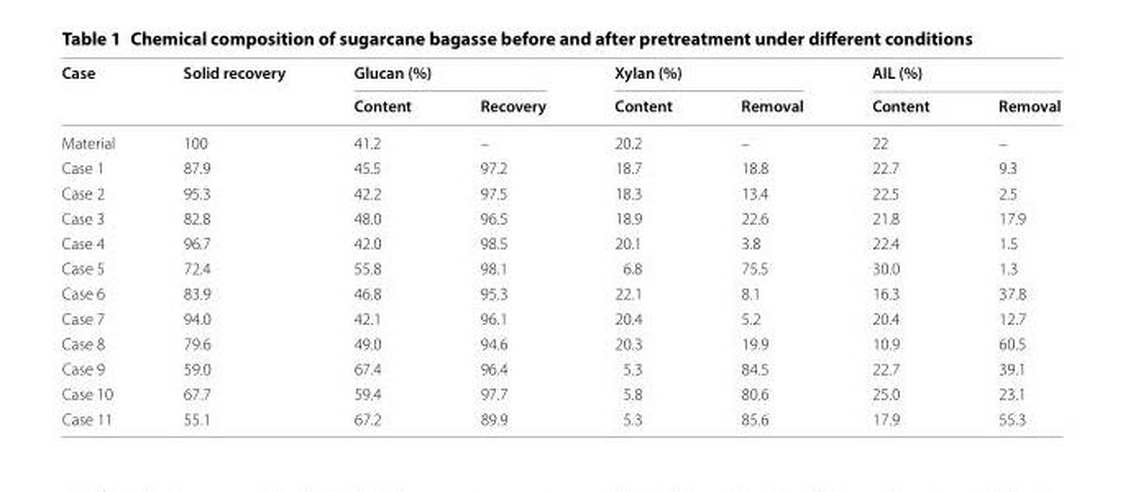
<table><thead><tr><td rowspan="2">Case</td><td rowspan="2">Solid recovery</td><td colspan="2">Glucan (%)</td><td colspan="2">Xylan (%)</td><td colspan="2">AIL (%)</td></tr><tr><td>Content</td><td>Recovery</td><td>Content</td><td>Removal</td><td>Content</td><td>Removal</td></tr></thead><tbody><tr><td>Material</td><td>100</td><td>41.2</td><td>–</td><td>20.2</td><td>–</td><td>22</td><td>–</td></tr><tr><td>Case 1</td><td>87.9</td><td>45.5</td><td>97.2</td><td>18.7</td><td>18.8</td><td>22.7</td><td>9.3</td></tr><tr><td>Case 2</td><td>95.3</td><td>42.2</td><td>97.5</td><td>18.3</td><td>13.4</td><td>22.5</td><td>2.5</td></tr><tr><td>Case 3</td><td>82.8</td><td>48.0</td><td>96.5</td><td>18.9</td><td>22.6</td><td>21.8</td><td>17.9</td></tr><tr><td>Case 4</td><td>96.7</td><td>42.0</td><td>98.5</td><td>20.1</td><td>3.8</td><td>22.4</td><td>1.5</td></tr><tr><td>Case 5</td><td>72.4</td><td>55.8</td><td>98.1</td><td>6.8</td><td>75.5</td><td>30.0</td><td>1.3</td></tr><tr><td>Case 6</td><td>83.9</td><td>46.8</td><td>95.3</td><td>22.1</td><td>8.1</td><td>16.3</td><td>37.8</td></tr><tr><td>Case 7</td><td>94.0</td><td>42.1</td><td>96.1</td><td>20.4</td><td>5.2</td><td>20.4</td><td>12.7</td></tr><tr><td>Case 8</td><td>79.6</td><td>49.0</td><td>94.6</td><td>20.3</td><td>19.9</td><td>10.9</td><td>60.5</td></tr><tr><td>Case 9</td><td>59.0</td><td>67.4</td><td>96.4</td><td>5.3</td><td>84.5</td><td>22.7</td><td>39.1</td></tr><tr><td>Case 10</td><td>67.7</td><td>59.4</td><td>97.7</td><td>5.8</td><td>80.6</td><td>25.0</td><td>23.1</td></tr><tr><td>Case 11</td><td>55.1</td><td>67.2</td><td>89.9</td><td>5.3</td><td>85.6</td><td>17.9</td><td>55.3</td></tr></tbody></table>